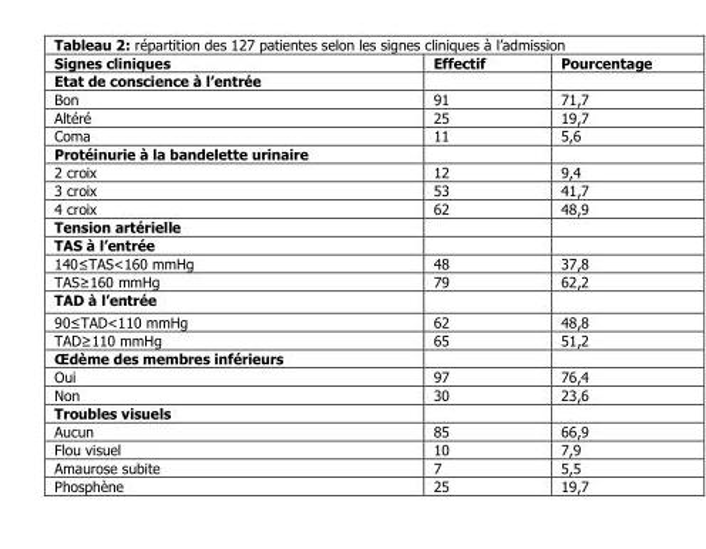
<table><thead><tr><td>Signes cliniques</td><td>Effectif</td><td>Pourcentage</td></tr></thead><tbody><tr><td colspan="3">Etat de conscience à l’entrée</td></tr><tr><td>Bon</td><td>91</td><td>71,7</td></tr><tr><td>Altéré</td><td>25</td><td>19,7</td></tr><tr><td>Coma</td><td>11</td><td>5,6</td></tr><tr><td colspan="3">Protéinurie à la bandelette urinaire</td></tr><tr><td>2 croix</td><td>12</td><td>9,4</td></tr><tr><td>3 croix</td><td>53</td><td>41,7</td></tr><tr><td>4 croix</td><td>62</td><td>48,9</td></tr><tr><td colspan="3">Tension artérielle</td></tr><tr><td colspan="3">TAS à l’entrée</td></tr><tr><td>140≤TAS&lt;160 mmHg</td><td>48</td><td>37,8</td></tr><tr><td>TAS≥160 mmHg</td><td>79</td><td>62,2</td></tr><tr><td colspan="3">TAD à l’entrée</td></tr><tr><td>90≤TAD&lt;110 mmHg</td><td>62</td><td>48,8</td></tr><tr><td>TAD≥110 mmHg</td><td>65</td><td>51,2</td></tr><tr><td colspan="3">Œdème des membres inférieurs</td></tr><tr><td>Oui</td><td>97</td><td>76,4</td></tr><tr><td>Non</td><td>30</td><td>23,6</td></tr><tr><td colspan="3">Troubles visuels</td></tr><tr><td>Aucun</td><td>85</td><td>66,9</td></tr><tr><td>Flou visuel</td><td>10</td><td>7,9</td></tr><tr><td>Amaurose subite</td><td>7</td><td>5,5</td></tr><tr><td>Phosphène</td><td>25</td><td>19,7</td></tr></tbody></table>